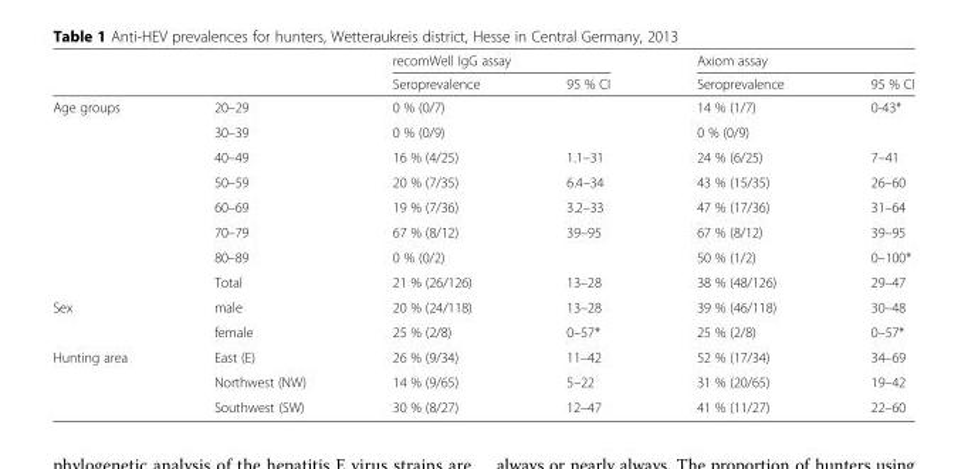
<table><thead><tr><td rowspan="2"></td><td rowspan="2"></td><td colspan="2">recomWell IgG assay</td><td colspan="2">Axiom assay</td></tr><tr><td>Seroprevalence</td><td>95 % CI</td><td>Seroprevalence</td><td>95 % CI</td></tr></thead><tbody><tr><td rowspan="8">Age groups</td><td>20–29</td><td>0 % (0/7)</td><td></td><td>14 % (1/7)</td><td>0-43*</td></tr><tr><td>30–39</td><td>0 % (0/9)</td><td></td><td>0 % (0/9)</td><td></td></tr><tr><td>40–49</td><td>16 % (4/25)</td><td>1.1–31</td><td>24 % (6/25)</td><td>7–41</td></tr><tr><td>50–59</td><td>20 % (7/35)</td><td>6.4–34</td><td>43 % (15/35)</td><td>26–60</td></tr><tr><td>60–69</td><td>19 % (7/36)</td><td>3.2–33</td><td>47 % (17/36)</td><td>31–64</td></tr><tr><td>70–79</td><td>67 % (8/12)</td><td>39–95</td><td>67 % (8/12)</td><td>39–95</td></tr><tr><td>80–89</td><td>0 % (0/2)</td><td></td><td>50 % (1/2)</td><td>0–100*</td></tr><tr><td>Total</td><td>21 % (26/126)</td><td>13–28</td><td>38 % (48/126)</td><td>29–47</td></tr><tr><td rowspan="2">Sex</td><td>male</td><td>20 % (24/118)</td><td>13–28</td><td>39 % (46/118)</td><td>30–48</td></tr><tr><td>female</td><td>25 % (2/8)</td><td>0–57*</td><td>25 % (2/8)</td><td>0–57*</td></tr><tr><td rowspan="3">Hunting area</td><td>East (E)</td><td>26 % (9/34)</td><td>11–42</td><td>52 % (17/34)</td><td>34–69</td></tr><tr><td>Northwest (NW)</td><td>14 % (9/65)</td><td>5–22</td><td>31 % (20/65)</td><td>19–42</td></tr><tr><td>Southwest (SW)</td><td>30 % (8/27)</td><td>12–47</td><td>41 % (11/27)</td><td>22–60</td></tr></tbody></table>